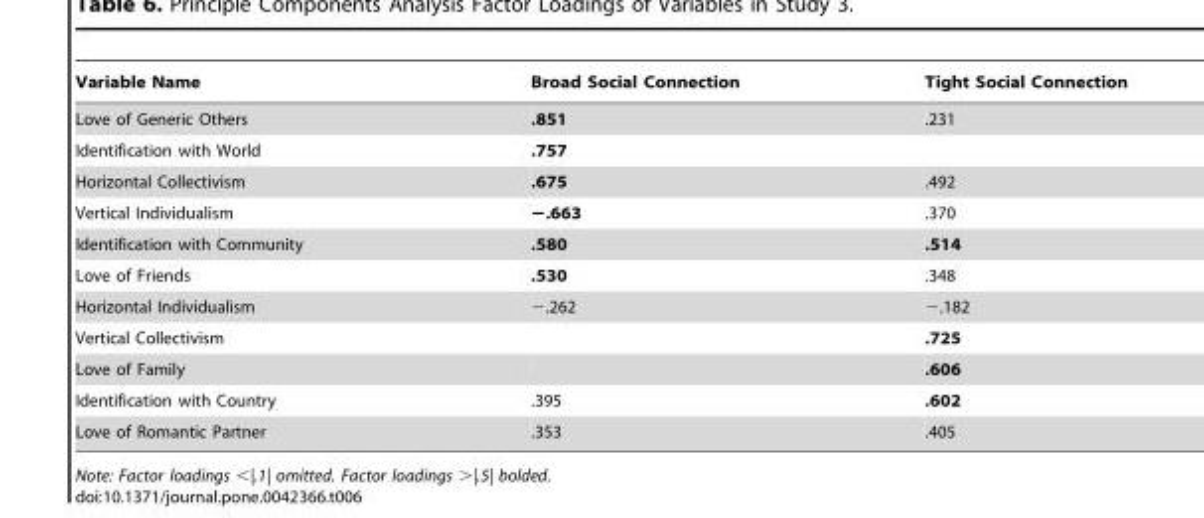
<table><thead><tr><td>Variable Name</td><td>Broad Social Connection</td><td>Tight Social Connection</td></tr></thead><tbody><tr><td>Love of Generic Others</td><td>.851</td><td>.231</td></tr><tr><td>Identification with World</td><td>.757</td><td></td></tr><tr><td>Horizontal Collectivism</td><td>.675</td><td>.492</td></tr><tr><td>Vertical Individualism</td><td>−.663</td><td>.370</td></tr><tr><td>Identification with Community</td><td>.580</td><td>.514</td></tr><tr><td>Love of Friends</td><td>.530</td><td>.348</td></tr><tr><td>Horizontal Individualism</td><td>−.262</td><td>−.182</td></tr><tr><td>Vertical Collectivism</td><td></td><td>.725</td></tr><tr><td>Love of Family</td><td></td><td>.606</td></tr><tr><td>Identification with Country</td><td>.395</td><td>.602</td></tr><tr><td>Love of Romantic Partner</td><td>.353</td><td>.405</td></tr></tbody></table>